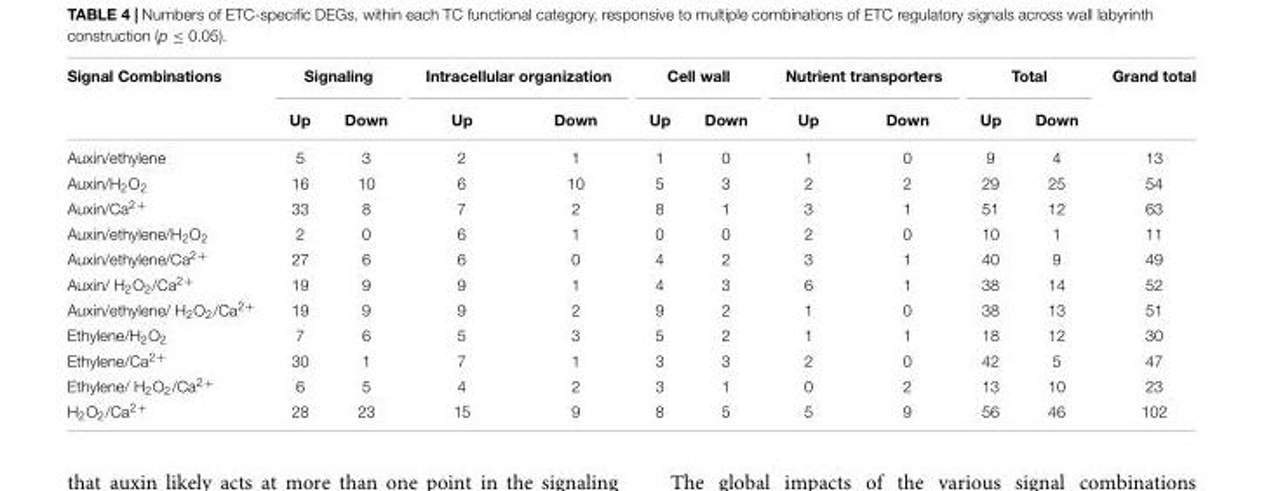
<table><thead><tr><td rowspan="2">Signal Combinations</td><td colspan="2">Signaling</td><td colspan="2">Intracellular organization</td><td colspan="2">Cell wall</td><td colspan="2">Nutrient transporters</td><td colspan="2">Total</td><td rowspan="2">Grand total</td></tr><tr><td>Up</td><td>Down</td><td>Up</td><td>Down</td><td>Up</td><td>Down</td><td>Up</td><td>Down</td><td>Up</td><td>Down</td></tr></thead><tbody><tr><td>Auxin/ethylene</td><td>5</td><td>3</td><td>2</td><td>1</td><td>1</td><td>0</td><td>1</td><td>0</td><td>9</td><td>4</td><td>13</td></tr><tr><td>Auxin/H<sub>2</sub>O<sub>2</sub></td><td>16</td><td>10</td><td>6</td><td>10</td><td>5</td><td>3</td><td>2</td><td>2</td><td>29</td><td>25</td><td>54</td></tr><tr><td>Auxin/Ca<sup>2+</sup></td><td>33</td><td>8</td><td>7</td><td>2</td><td>8</td><td>1</td><td>3</td><td>1</td><td>51</td><td>12</td><td>63</td></tr><tr><td>Auxin/ethylene/H<sub>2</sub>O<sub>2</sub></td><td>2</td><td>0</td><td>6</td><td>1</td><td>0</td><td>0</td><td>2</td><td>0</td><td>10</td><td>1</td><td>11</td></tr><tr><td>Auxin/ethylene/Ca<sup>2+</sup></td><td>27</td><td>6</td><td>6</td><td>0</td><td>4</td><td>2</td><td>3</td><td>1</td><td>40</td><td>9</td><td>49</td></tr><tr><td>Auxin/ H<sub>2</sub>O<sub>2</sub>/Ca<sup>2+</sup></td><td>19</td><td>9</td><td>9</td><td>1</td><td>4</td><td>3</td><td>6</td><td>1</td><td>38</td><td>14</td><td>52</td></tr><tr><td>Auxin/ethylene/ H<sub>2</sub>O<sub>2</sub>/Ca<sup>2+</sup></td><td>19</td><td>9</td><td>9</td><td>2</td><td>9</td><td>2</td><td>1</td><td>0</td><td>38</td><td>13</td><td>51</td></tr><tr><td>Ethylene/H<sub>2</sub>O<sub>2</sub></td><td>7</td><td>6</td><td>5</td><td>3</td><td>5</td><td>2</td><td>1</td><td>1</td><td>18</td><td>12</td><td>30</td></tr><tr><td>Ethylene/Ca<sup>2+</sup></td><td>30</td><td>1</td><td>7</td><td>1</td><td>3</td><td>3</td><td>2</td><td>0</td><td>42</td><td>5</td><td>47</td></tr><tr><td>Ethylene/ H<sub>2</sub>O<sub>2</sub>/Ca<sup>2+</sup></td><td>6</td><td>5</td><td>4</td><td>2</td><td>3</td><td>1</td><td>0</td><td>2</td><td>13</td><td>10</td><td>23</td></tr><tr><td>H<sub>2</sub>O<sub>2</sub>/Ca<sup>2+</sup></td><td>28</td><td>23</td><td>15</td><td>9</td><td>8</td><td>5</td><td>5</td><td>9</td><td>56</td><td>46</td><td>102</td></tr></tbody></table>